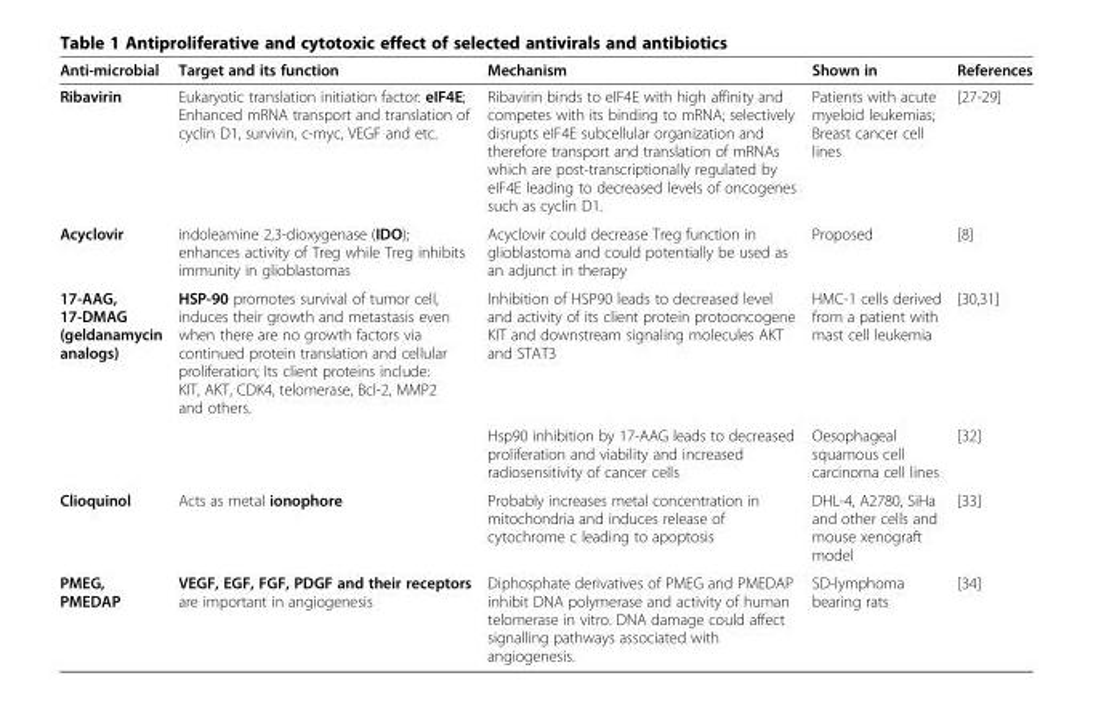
<table><thead><tr><td>Anti-microbial</td><td>Target and its function</td><td>Mechanism</td><td>Shown in</td><td>References</td></tr></thead><tbody><tr><td>Ribavirin</td><td>Eukaryotic translation initiation factor: eIF4E; Enhanced mRNA transport and translation of cyclin D1, survivin, c-myc, VEGF and etc.</td><td>Ribavirin binds to eIF4E with high affinity and competes with its binding to mRNA; selectively disrupts eIF4E subcellular organization and therefore transport and translation of mRNAs which are post-transcriptionally regulated by eIF4E leading to decreased levels of oncogenes such as cyclin D1.</td><td>Patients with acute myeloid leukemias; Breast cancer cell lines</td><td>[27-29]</td></tr><tr><td>Acyclovir</td><td>indoleamine 2,3-dioxygenase (IDO); enhances activity of Treg while Treg inhibits immunity in glioblastomas</td><td>Acyclovir could decrease Treg function in glioblastoma and could potentially be used as an adjunct in therapy</td><td>Proposed</td><td>[8]</td></tr><tr><td rowspan="2">17-AAG, 17-DMAG (geldanamycin analogs)</td><td>HSP-90 promotes survival of tumor cell, induces their growth and metastasis even when there are no growth factors via continued protein translation and cellular proliferation; Its client proteins include: KIT, AKT, CDK4, telomerase, Bcl-2, MMP2 and others.</td><td>Inhibition of HSP90 leads to decreased level and activity of its client protein protooncogene KIT and downstream signaling molecules AKT and STAT3</td><td>HMC-1 cells derived from a patient with mast cell leukemia</td><td>[30,31]</td></tr><tr><td></td><td>Hsp90 inhibition by 17-AAG leads to decreased proliferation and viability and increased radiosensitivity of cancer cells</td><td>Oesophageal squamous cell carcinoma cell lines</td><td>[32]</td></tr><tr><td>Clioquinol</td><td>Acts as metal ionophore</td><td>Probably increases metal concentration in mitochondria and induces release of cytochrome c leading to apoptosis</td><td>DHL-4, A2780, SiHa and other cells and mouse xenograft model</td><td>[33]</td></tr><tr><td>PMEG, PMEDAP</td><td>VEGF, EGF, FGF, PDGF and their receptors are important in angiogenesis</td><td>Diphosphate derivatives of PMEG and PMEDAP inhibit DNA polymerase and activity of human telomerase in vitro. DNA damage could affect signalling pathways associated with angiogenesis.</td><td>SD-lymphoma bearing rats</td><td>[34]</td></tr></tbody></table>